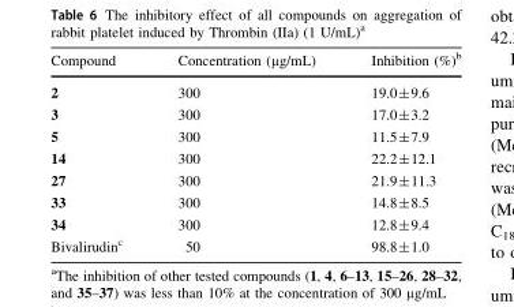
<table><thead><tr><td>Compound</td><td>Concentration (µg/mL)</td><td>Inhibition (%)<sup>b</sup></td></tr></thead><tbody><tr><td>2</td><td>300</td><td>19.0±9.6</td></tr><tr><td>3</td><td>300</td><td>17.0±3.2</td></tr><tr><td>5</td><td>300</td><td>11.5±7.9</td></tr><tr><td>14</td><td>300</td><td>22.2±12.1</td></tr><tr><td>27</td><td>300</td><td>21.9±11.3</td></tr><tr><td>33</td><td>300</td><td>14.8±8.5</td></tr><tr><td>34</td><td>300</td><td>12.8±9.4</td></tr><tr><td>Bivalirudin<sup>c</sup></td><td>50</td><td>98.8±1.0</td></tr></tbody></table>